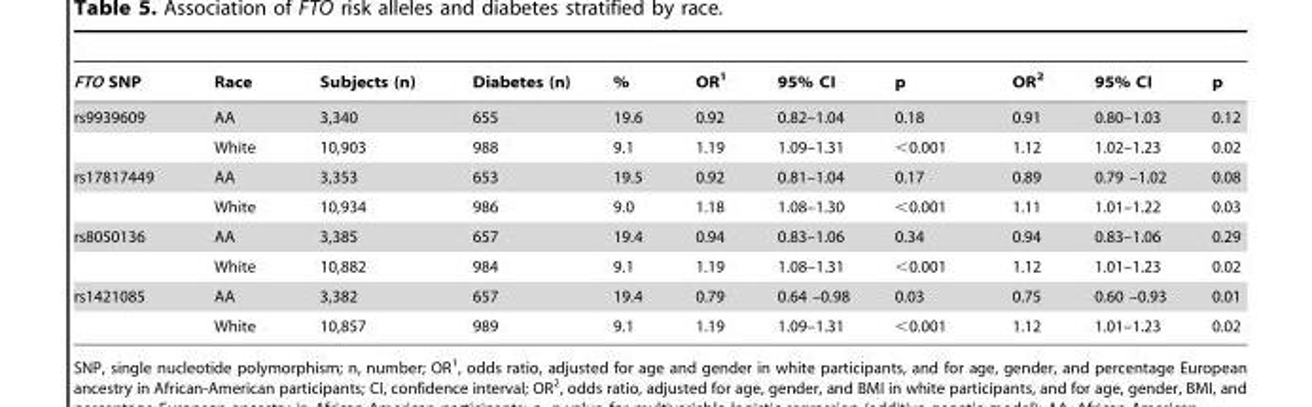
<table><thead><tr><td>FTO SNP</td><td>Race</td><td>Subjects (n)</td><td>Diabetes (n)</td><td>%</td><td>OR<sup>1</sup></td><td>95% CI</td><td>p</td><td>OR<sup>2</sup></td><td>95% CI</td><td>p</td></tr></thead><tbody><tr><td rowspan="2">rs9939609</td><td>AA</td><td>3,340</td><td>655</td><td>19.6</td><td>0.92</td><td>0.82–1.04</td><td>0.18</td><td>0.91</td><td>0.80–1.03</td><td>0.12</td></tr><tr><td>White</td><td>10,903</td><td>988</td><td>9.1</td><td>1.19</td><td>1.09–1.31</td><td>&lt;0.001</td><td>1.12</td><td>1.02–1.23</td><td>0.02</td></tr><tr><td rowspan="2">rs17817449</td><td>AA</td><td>3,353</td><td>653</td><td>19.5</td><td>0.92</td><td>0.81–1.04</td><td>0.17</td><td>0.89</td><td>0.79 –1.02</td><td>0.08</td></tr><tr><td>White</td><td>10,934</td><td>986</td><td>9.0</td><td>1.18</td><td>1.08–1.30</td><td>&lt;0.001</td><td>1.11</td><td>1.01–1.22</td><td>0.03</td></tr><tr><td rowspan="2">rs8050136</td><td>AA</td><td>3,385</td><td>657</td><td>19.4</td><td>0.94</td><td>0.83–1.06</td><td>0.34</td><td>0.94</td><td>0.83–1.06</td><td>0.29</td></tr><tr><td>White</td><td>10,882</td><td>984</td><td>9.1</td><td>1.19</td><td>1.08–1.31</td><td>&lt;0.001</td><td>1.12</td><td>1.01–1.23</td><td>0.02</td></tr><tr><td rowspan="2">rs1421085</td><td>AA</td><td>3,382</td><td>657</td><td>19.4</td><td>0.79</td><td>0.64 –0.98</td><td>0.03</td><td>0.75</td><td>0.60 –0.93</td><td>0.01</td></tr><tr><td>White</td><td>10,857</td><td>989</td><td>9.1</td><td>1.19</td><td>1.09–1.31</td><td>&lt;0.001</td><td>1.12</td><td>1.01–1.23</td><td>0.02</td></tr></tbody></table>